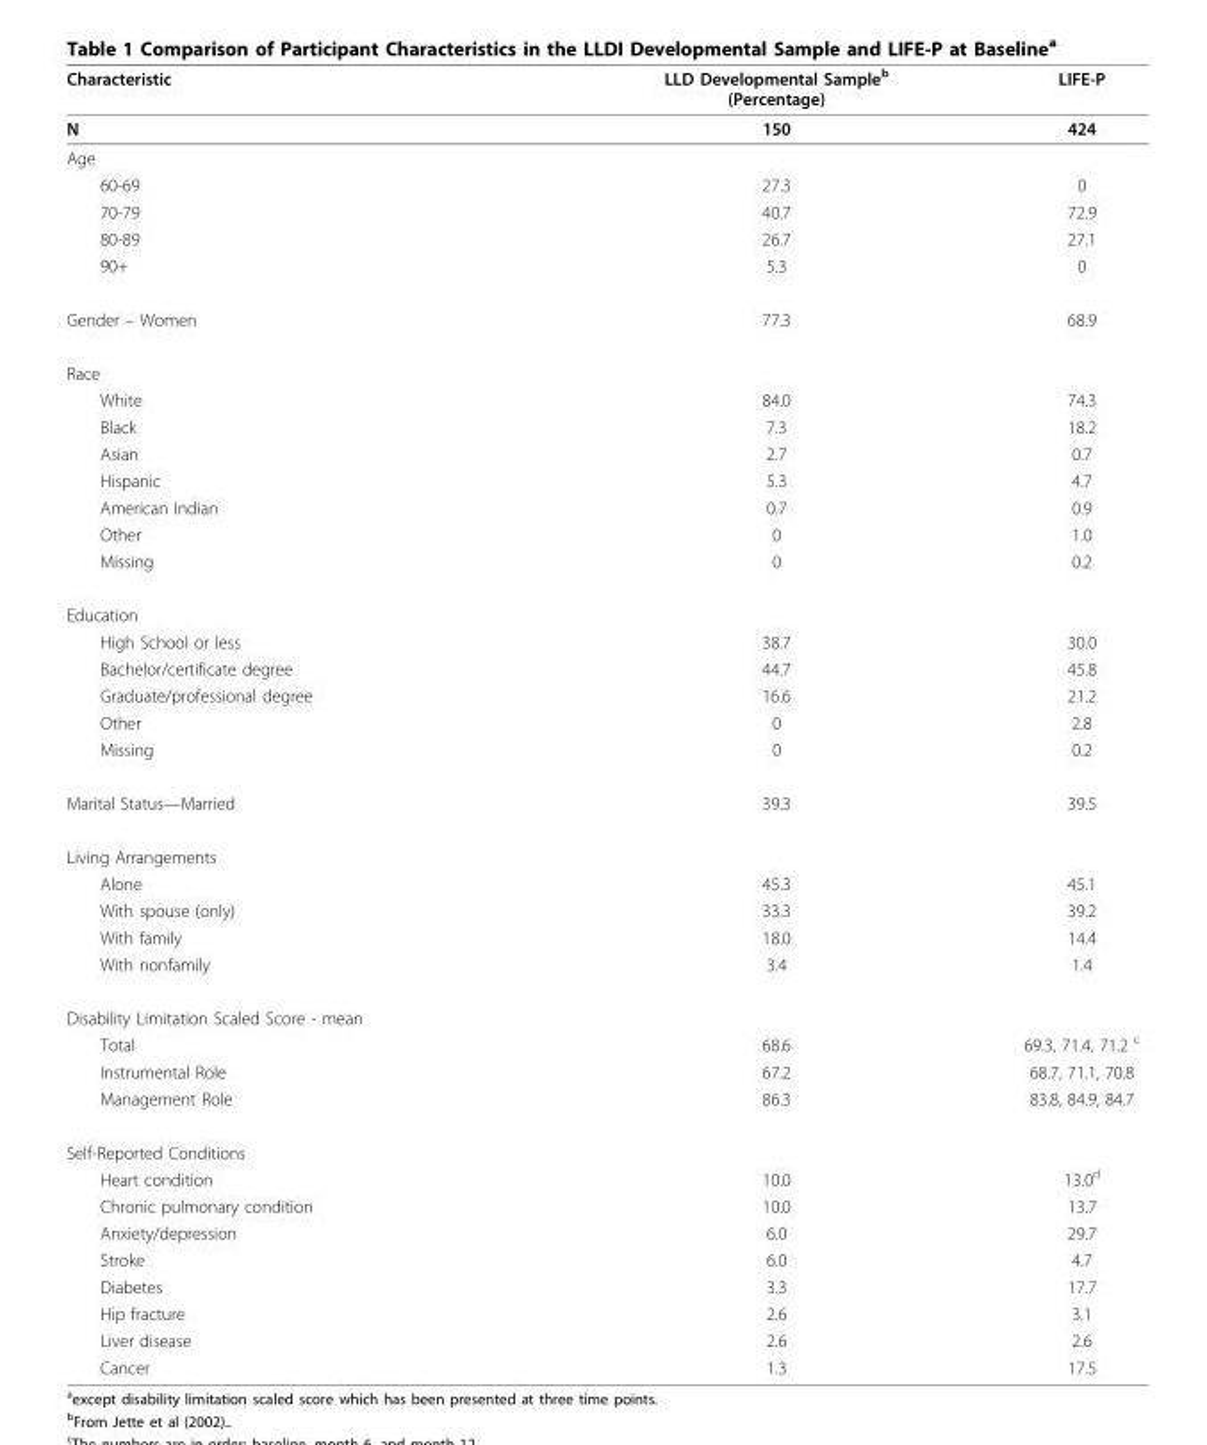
<table><thead><tr><td>Characteristic</td><td>LLD Developmental Sample<sup>b</sup> (Percentage)</td><td>LIFE-P</td></tr></thead><tbody><tr><td>N</td><td>150</td><td>424</td></tr><tr><td colspan="3">Age</td></tr><tr><td>60-69</td><td>27.3</td><td>0</td></tr><tr><td>70-79</td><td>40.7</td><td>72.9</td></tr><tr><td>80-89</td><td>26.7</td><td>27.1</td></tr><tr><td>90+</td><td>5.3</td><td>0</td></tr><tr><td>Gender – Women</td><td>77.3</td><td>68.9</td></tr><tr><td colspan="3">Race</td></tr><tr><td>White</td><td>84.0</td><td>74.3</td></tr><tr><td>Black</td><td>7.3</td><td>18.2</td></tr><tr><td>Asian</td><td>2.7</td><td>0.7</td></tr><tr><td>Hispanic</td><td>5.3</td><td>4.7</td></tr><tr><td>American Indian</td><td>0.7</td><td>0.9</td></tr><tr><td>Other</td><td>0</td><td>1.0</td></tr><tr><td>Missing</td><td>0</td><td>0.2</td></tr><tr><td colspan="3">Education</td></tr><tr><td>High School or less</td><td>38.7</td><td>30.0</td></tr><tr><td>Bachelor/certificate degree</td><td>44.7</td><td>45.8</td></tr><tr><td>Graduate/professional degree</td><td>16.6</td><td>21.2</td></tr><tr><td>Other</td><td>0</td><td>2.8</td></tr><tr><td>Missing</td><td>0</td><td>0.2</td></tr><tr><td>Marital Status—Married</td><td>39.3</td><td>39.5</td></tr><tr><td colspan="3">Living Arrangements</td></tr><tr><td>Alone</td><td>45.3</td><td>45.1</td></tr><tr><td>With spouse (only)</td><td>33.3</td><td>39.2</td></tr><tr><td>With family</td><td>18.0</td><td>14.4</td></tr><tr><td>With nonfamily</td><td>3.4</td><td>1.4</td></tr><tr><td colspan="3">Disability Limitation Scaled Score - mean</td></tr><tr><td>Total</td><td>68.6</td><td>69.3, 71.4, 71.2 <sup>c</sup></td></tr><tr><td>Instrumental Role</td><td>67.2</td><td>68.7, 71.1, 70.8</td></tr><tr><td>Management Role</td><td>86.3</td><td>83.8, 84.9, 84.7</td></tr><tr><td colspan="3">Self-Reported Conditions</td></tr><tr><td>Heart condition</td><td>10.0</td><td>13.0<sup>d</sup></td></tr><tr><td>Chronic pulmonary condition</td><td>10.0</td><td>13.7</td></tr><tr><td>Anxiety/depression</td><td>6.0</td><td>29.7</td></tr><tr><td>Stroke</td><td>6.0</td><td>4.7</td></tr><tr><td>Diabetes</td><td>3.3</td><td>17.7</td></tr><tr><td>Hip fracture</td><td>2.6</td><td>3.1</td></tr><tr><td>Liver disease</td><td>2.6</td><td>2.6</td></tr><tr><td>Cancer</td><td>1.3</td><td>17.5</td></tr></tbody></table>